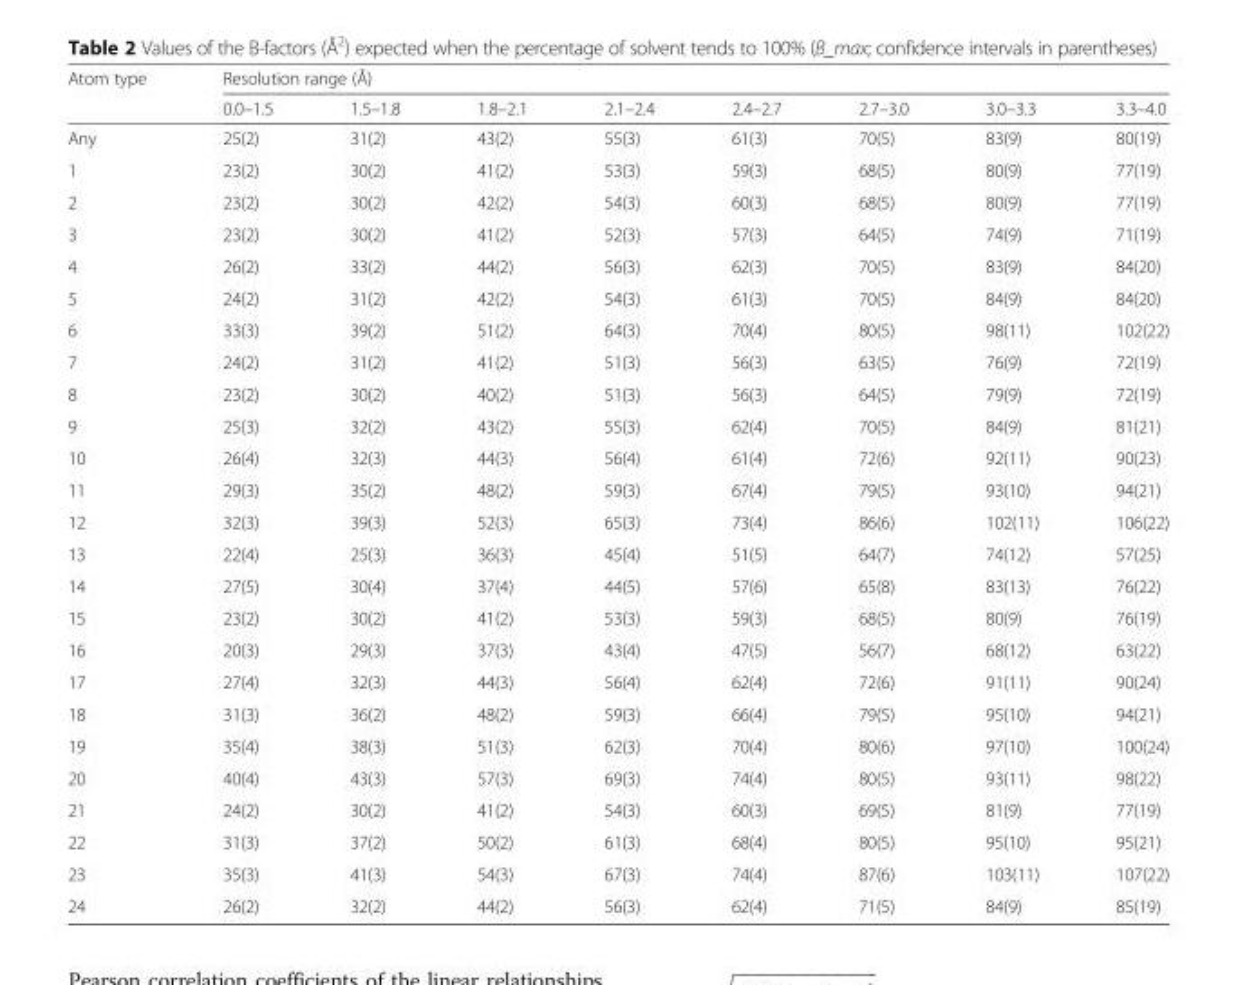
<table><thead><tr><td rowspan="2">Atom type</td><td colspan="8">Resolution range (Å)</td></tr><tr><td>0.0–1.5</td><td>1.5–1.8</td><td>1.8–2.1</td><td>2.1–2.4</td><td>2.4–2.7</td><td>2.7–3.0</td><td>3.0–3.3</td><td>3.3–4.0</td></tr></thead><tbody><tr><td>Any</td><td>25(2)</td><td>31(2)</td><td>43(2)</td><td>55(3)</td><td>61(3)</td><td>70(5)</td><td>83(9)</td><td>80(19)</td></tr><tr><td>1</td><td>23(2)</td><td>30(2)</td><td>41(2)</td><td>53(3)</td><td>59(3)</td><td>68(5)</td><td>80(9)</td><td>77(19)</td></tr><tr><td>2</td><td>23(2)</td><td>30(2)</td><td>42(2)</td><td>54(3)</td><td>60(3)</td><td>68(5)</td><td>80(9)</td><td>77(19)</td></tr><tr><td>3</td><td>23(2)</td><td>30(2)</td><td>41(2)</td><td>52(3)</td><td>57(3)</td><td>64(5)</td><td>74(9)</td><td>71(19)</td></tr><tr><td>4</td><td>26(2)</td><td>33(2)</td><td>44(2)</td><td>56(3)</td><td>62(3)</td><td>70(5)</td><td>83(9)</td><td>84(20)</td></tr><tr><td>5</td><td>24(2)</td><td>31(2)</td><td>42(2)</td><td>54(3)</td><td>61(3)</td><td>70(5)</td><td>84(9)</td><td>84(20)</td></tr><tr><td>6</td><td>33(3)</td><td>39(2)</td><td>51(2)</td><td>64(3)</td><td>70(4)</td><td>80(5)</td><td>98(11)</td><td>102(22)</td></tr><tr><td>7</td><td>24(2)</td><td>31(2)</td><td>41(2)</td><td>51(3)</td><td>56(3)</td><td>63(5)</td><td>76(9)</td><td>72(19)</td></tr><tr><td>8</td><td>23(2)</td><td>30(2)</td><td>40(2)</td><td>51(3)</td><td>56(3)</td><td>64(5)</td><td>79(9)</td><td>72(19)</td></tr><tr><td>9</td><td>25(3)</td><td>32(2)</td><td>43(2)</td><td>55(3)</td><td>62(4)</td><td>70(5)</td><td>84(9)</td><td>81(21)</td></tr><tr><td>10</td><td>26(4)</td><td>32(3)</td><td>44(3)</td><td>56(4)</td><td>61(4)</td><td>72(6)</td><td>92(11)</td><td>90(23)</td></tr><tr><td>11</td><td>29(3)</td><td>35(2)</td><td>48(2)</td><td>59(3)</td><td>67(4)</td><td>79(5)</td><td>93(10)</td><td>94(21)</td></tr><tr><td>12</td><td>32(3)</td><td>39(3)</td><td>52(3)</td><td>65(3)</td><td>73(4)</td><td>86(6)</td><td>102(11)</td><td>106(22)</td></tr><tr><td>13</td><td>22(4)</td><td>25(3)</td><td>36(3)</td><td>45(4)</td><td>51(5)</td><td>64(7)</td><td>74(12)</td><td>57(25)</td></tr><tr><td>14</td><td>27(5)</td><td>30(4)</td><td>37(4)</td><td>44(5)</td><td>57(6)</td><td>65(8)</td><td>83(13)</td><td>76(22)</td></tr><tr><td>15</td><td>23(2)</td><td>30(2)</td><td>41(2)</td><td>53(3)</td><td>59(3)</td><td>68(5)</td><td>80(9)</td><td>76(19)</td></tr><tr><td>16</td><td>20(3)</td><td>29(3)</td><td>37(3)</td><td>43(4)</td><td>47(5)</td><td>56(7)</td><td>68(12)</td><td>63(22)</td></tr><tr><td>17</td><td>27(4)</td><td>32(3)</td><td>44(3)</td><td>56(4)</td><td>62(4)</td><td>72(6)</td><td>91(11)</td><td>90(24)</td></tr><tr><td>18</td><td>31(3)</td><td>36(2)</td><td>48(2)</td><td>59(3)</td><td>66(4)</td><td>79(5)</td><td>95(10)</td><td>94(21)</td></tr><tr><td>19</td><td>35(4)</td><td>38(3)</td><td>51(3)</td><td>62(3)</td><td>70(4)</td><td>80(6)</td><td>97(10)</td><td>100(24)</td></tr><tr><td>20</td><td>40(4)</td><td>43(3)</td><td>57(3)</td><td>69(3)</td><td>74(4)</td><td>80(5)</td><td>93(11)</td><td>98(22)</td></tr><tr><td>21</td><td>24(2)</td><td>30(2)</td><td>41(2)</td><td>54(3)</td><td>60(3)</td><td>69(5)</td><td>81(9)</td><td>77(19)</td></tr><tr><td>22</td><td>31(3)</td><td>37(2)</td><td>50(2)</td><td>61(3)</td><td>68(4)</td><td>80(5)</td><td>95(10)</td><td>95(21)</td></tr><tr><td>23</td><td>35(3)</td><td>41(3)</td><td>54(3)</td><td>67(3)</td><td>74(4)</td><td>87(6)</td><td>103(11)</td><td>107(22)</td></tr><tr><td>24</td><td>26(2)</td><td>32(2)</td><td>44(2)</td><td>56(3)</td><td>62(4)</td><td>71(5)</td><td>84(9)</td><td>85(19)</td></tr></tbody></table>